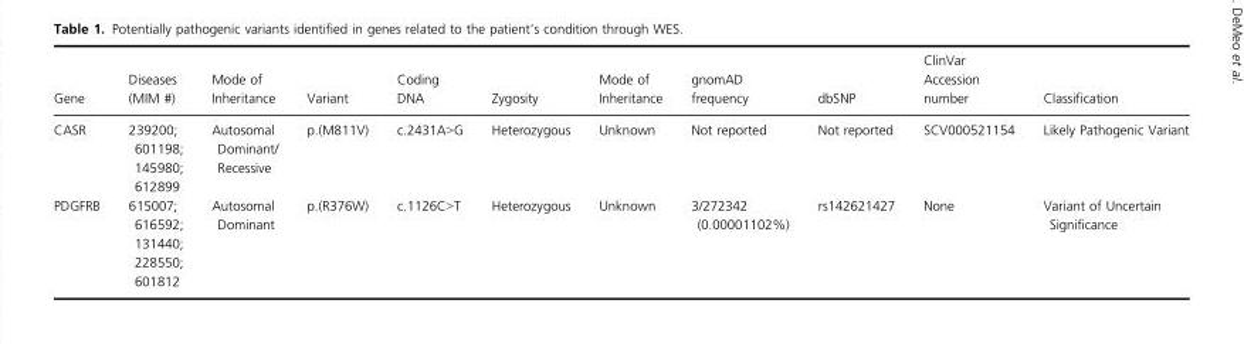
<table><thead><tr><td>Gene</td><td>Diseases (MIM #)</td><td>Mode of Inheritance</td><td>Variant</td><td>Coding DNA</td><td>Zygosity</td><td>Mode of Inheritance</td><td>gnomAD frequency</td><td>dbSNP</td><td>ClinVar Accession number</td><td>Classification</td></tr></thead><tbody><tr><td>CASR</td><td>239200; 601198; 145980; 612899</td><td>Autosomal Dominant/ Recessive</td><td>p.(M811V)</td><td>c.2431A&gt;G</td><td>Heterozygous</td><td>Unknown</td><td>Not reported</td><td>Not reported</td><td>SCV000521154</td><td>Likely Pathogenic Variant</td></tr><tr><td>PDGFRB</td><td>615007; 616592; 131440; 228550; 601812</td><td>Autosomal Dominant</td><td>p.(R376W)</td><td>c.1126C&gt;T</td><td>Heterozygous</td><td>Unknown</td><td>3/272342 (0.00001102%)</td><td>rs142621427</td><td>None</td><td>Variant of Uncertain Significance</td></tr></tbody></table>